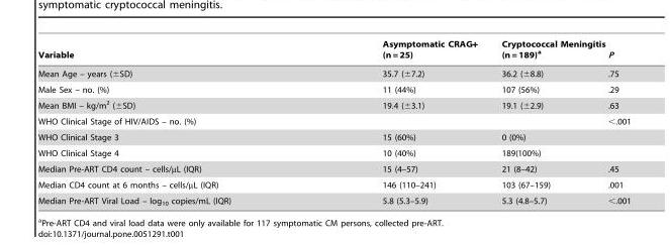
<table><thead><tr><td>Variable</td><td>Asymptomatic CRAG+ (n = 25)</td><td>Cryptococcal Meningitis (n = 189)<sup>a</sup></td><td>P</td></tr></thead><tbody><tr><td>Mean Age – years (±SD)</td><td>35.7 (±7.2)</td><td>36.2 (±8.8)</td><td>.75</td></tr><tr><td>Male Sex – no. (%)</td><td>11 (44%)</td><td>107 (56%)</td><td>.29</td></tr><tr><td>Mean BMI – kg/m<sup>2</sup> (±SD)</td><td>19.4 (±3.1)</td><td>19.1 (±2.9)</td><td>.63</td></tr><tr><td>WHO Clinical Stage of HIV/AIDS – no. (%)</td><td></td><td></td><td>&lt;.001</td></tr><tr><td>WHO Clinical Stage 3</td><td>15 (60%)</td><td>0 (0%)</td><td></td></tr><tr><td>WHO Clinical Stage 4</td><td>10 (40%)</td><td>189(100%)</td><td></td></tr><tr><td>Median Pre-ART CD4 count – cells/µL (IQR)</td><td>15 (4–57)</td><td>21 (8–42)</td><td>.45</td></tr><tr><td>Median CD4 count at 6 months – cells/µL (IQR)</td><td>146 (110–241)</td><td>103 (67–159)</td><td>.001</td></tr><tr><td>Median Pre-ART Viral Load – log<sub>10</sub> copies/mL (IQR)</td><td>5.8 (5.3–5.9)</td><td>5.3 (4.8–5.7)</td><td>&lt;.001</td></tr></tbody></table>